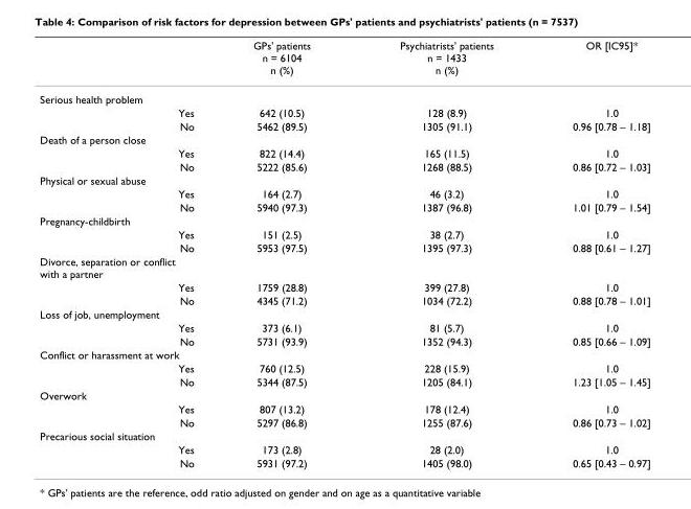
<table><thead><tr><td></td><td>GPs&#x27; patients n = 6104 n (%)</td><td>Psychiatrists&#x27; patients n = 1433 n (%)</td><td>OR [IC95]*</td></tr></thead><tbody><tr><td colspan="4">Serious health problem</td></tr><tr><td>Yes</td><td>642 (10.5)</td><td>128 (8.9)</td><td>1.0</td></tr><tr><td>No</td><td>5462 (89.5)</td><td>1305 (91.1)</td><td>0.96 [0.78 – 1.18]</td></tr><tr><td colspan="4">Death of a person close</td></tr><tr><td>Yes</td><td>822 (14.4)</td><td>165 (11.5)</td><td>1.0</td></tr><tr><td>No</td><td>5222 (85.6)</td><td>1268 (88.5)</td><td>0.86 [0.72 – 1.03]</td></tr><tr><td colspan="4">Physical or sexual abuse</td></tr><tr><td>Yes</td><td>164 (2.7)</td><td>46 (3.2)</td><td>1.0</td></tr><tr><td>No</td><td>5940 (97.3)</td><td>1387 (96.8)</td><td>1.01 [0.79 – 1.54]</td></tr><tr><td colspan="4">Pregnancy-childbirth</td></tr><tr><td>Yes</td><td>151 (2.5)</td><td>38 (2.7)</td><td>1.0</td></tr><tr><td>No</td><td>5953 (97.5)</td><td>1395 (97.3)</td><td>0.88 [0.61 – 1.27]</td></tr><tr><td colspan="4">Divorce, separation or conflict with a partner</td></tr><tr><td>Yes</td><td>1759 (28.8)</td><td>399 (27.8)</td><td>1.0</td></tr><tr><td>No</td><td>4345 (71.2)</td><td>1034 (72.2)</td><td>0.88 [0.78 – 1.01]</td></tr><tr><td colspan="4">Loss of job, unemployment</td></tr><tr><td>Yes</td><td>373 (6.1)</td><td>81 (5.7)</td><td>1.0</td></tr><tr><td>No</td><td>5731 (93.9)</td><td>1352 (94.3)</td><td>0.85 [0.66 – 1.09]</td></tr><tr><td colspan="4">Conflict or harassment at work</td></tr><tr><td>Yes</td><td>760 (12.5)</td><td>228 (15.9)</td><td>1.0</td></tr><tr><td>No</td><td>5344 (87.5)</td><td>1205 (84.1)</td><td>1.23 [1.05 – 1.45]</td></tr><tr><td colspan="4">Overwork</td></tr><tr><td>Yes</td><td>807 (13.2)</td><td>178 (12.4)</td><td>1.0</td></tr><tr><td>No</td><td>5297 (86.8)</td><td>1255 (87.6)</td><td>0.86 [0.73 – 1.02]</td></tr><tr><td colspan="4">Precarious social situation</td></tr><tr><td>Yes</td><td>173 (2.8)</td><td>28 (2.0)</td><td>1.0</td></tr><tr><td>No</td><td>5931 (97.2)</td><td>1405 (98.0)</td><td>0.65 [0.43 – 0.97]</td></tr></tbody></table>